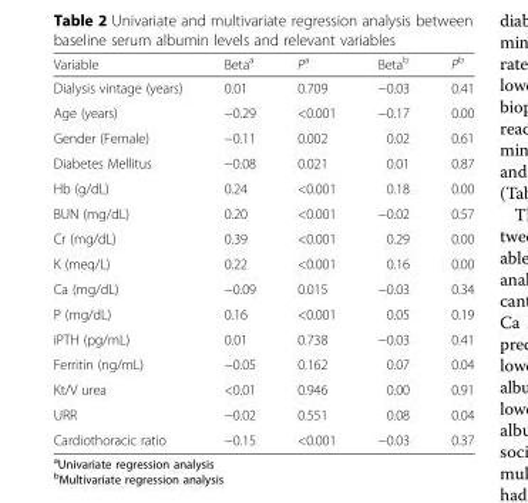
<table><thead><tr><td>Variable</td><td>Beta<sup>a</sup></td><td>P<sup>a</sup></td><td>Beta<sup>b</sup></td><td>P<sup>b</sup></td></tr></thead><tbody><tr><td>Dialysis vintage (years)</td><td>0.01</td><td>0.709</td><td>−0.03</td><td>0.41</td></tr><tr><td>Age (years)</td><td>−0.29</td><td>&lt;0.001</td><td>−0.17</td><td>0.00</td></tr><tr><td>Gender (Female)</td><td>−0.11</td><td>0.002</td><td>0.02</td><td>0.61</td></tr><tr><td>Diabetes Mellitus</td><td>−0.08</td><td>0.021</td><td>0.01</td><td>0.87</td></tr><tr><td>Hb (g/dL)</td><td>0.24</td><td>&lt;0.001</td><td>0.18</td><td>0.00</td></tr><tr><td>BUN (mg/dL)</td><td>0.20</td><td>&lt;0.001</td><td>−0.02</td><td>0.57</td></tr><tr><td>Cr (mg/dL)</td><td>0.39</td><td>&lt;0.001</td><td>0.29</td><td>0.00</td></tr><tr><td>K (meq/L)</td><td>0.22</td><td>&lt;0.001</td><td>0.16</td><td>0.00</td></tr><tr><td>Ca (mg/dL)</td><td>−0.09</td><td>0.015</td><td>−0.03</td><td>0.34</td></tr><tr><td>P (mg/dL)</td><td>0.16</td><td>&lt;0.001</td><td>0.05</td><td>0.19</td></tr><tr><td>iPTH (pg/mL)</td><td>0.01</td><td>0.738</td><td>−0.03</td><td>0.41</td></tr><tr><td>Ferritin (ng/mL)</td><td>−0.05</td><td>0.162</td><td>0.07</td><td>0.04</td></tr><tr><td>Kt/V urea</td><td>&lt;0.01</td><td>0.946</td><td>0.00</td><td>0.91</td></tr><tr><td>URR</td><td>−0.02</td><td>0.551</td><td>0.08</td><td>0.04</td></tr><tr><td>Cardiothoracic ratio</td><td>−0.15</td><td>&lt;0.001</td><td>−0.03</td><td>0.37</td></tr></tbody></table>